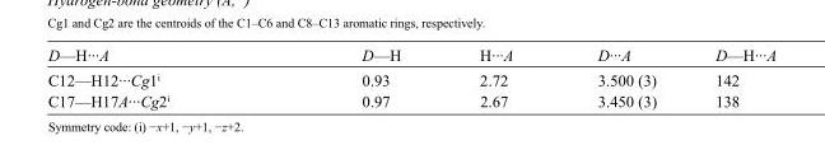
<table><tbody><tr><td>D—H···A</td><td>D—H</td><td>H···A</td><td>D···A</td><td>D—H···A</td></tr><tr><td>C12—H12···Cg1<sup>i</sup></td><td>0.93</td><td>2.72</td><td>3.500 (3)</td><td>142</td></tr><tr><td>C17—H17A···Cg2<sup>i</sup></td><td>0.97</td><td>2.67</td><td>3.450 (3)</td><td>138</td></tr></tbody></table>